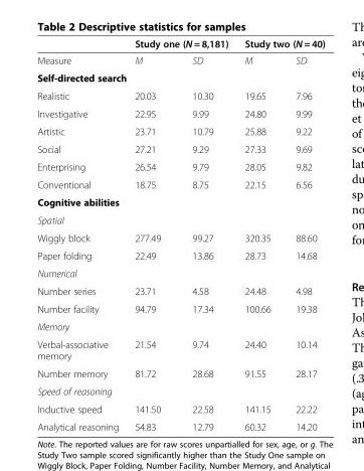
<table><thead><tr><td rowspan="2">Measure</td><td colspan="2">Study one (N = 8,181)</td><td colspan="2">Study two (N = 40)</td></tr><tr><td>M</td><td>SD</td><td>M</td><td>SD</td></tr></thead><tbody><tr><td colspan="5">Self-directed search</td></tr><tr><td>Realistic</td><td>20.03</td><td>10.30</td><td>19.65</td><td>7.96</td></tr><tr><td>Investigative</td><td>22.95</td><td>9.99</td><td>24.80</td><td>9.99</td></tr><tr><td>Artistic</td><td>23.71</td><td>10.79</td><td>25.88</td><td>9.22</td></tr><tr><td>Social</td><td>27.21</td><td>9.29</td><td>27.33</td><td>9.69</td></tr><tr><td>Enterprising</td><td>26.54</td><td>9.79</td><td>28.05</td><td>9.82</td></tr><tr><td>Conventional</td><td>18.75</td><td>8.75</td><td>22.15</td><td>6.56</td></tr><tr><td colspan="5">Cognitive abilities</td></tr><tr><td colspan="5">Spatial</td></tr><tr><td>Wiggly block</td><td>277.49</td><td>99.27</td><td>320.35</td><td>88.60</td></tr><tr><td>Paper folding</td><td>22.49</td><td>13.86</td><td>28.73</td><td>14.68</td></tr><tr><td colspan="5">Numerical</td></tr><tr><td>Number series</td><td>23.71</td><td>4.58</td><td>24.48</td><td>4.98</td></tr><tr><td>Number facility</td><td>94.79</td><td>17.34</td><td>100.66</td><td>19.38</td></tr><tr><td colspan="5">Memory</td></tr><tr><td>Verbal-associative memory</td><td>21.54</td><td>9.74</td><td>24.40</td><td>10.14</td></tr><tr><td>Number memory</td><td>81.72</td><td>28.68</td><td>91.55</td><td>28.17</td></tr><tr><td colspan="5">Speed of reasoning</td></tr><tr><td>Inductive speed</td><td>141.50</td><td>22.58</td><td>141.15</td><td>22.22</td></tr><tr><td>Analytical reasoning</td><td>54.83</td><td>12.79</td><td>60.32</td><td>14.20</td></tr></tbody></table>